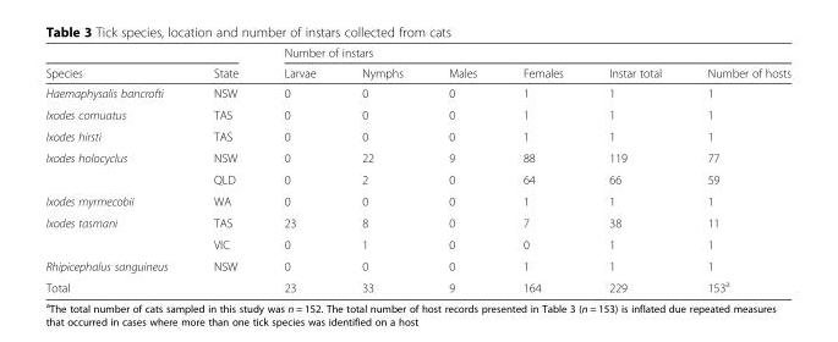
<table><thead><tr><td rowspan="2">Species</td><td rowspan="2">State</td><td colspan="6">Number of instars</td></tr><tr><td>Larvae</td><td>Nymphs</td><td>Males</td><td>Females</td><td>Instar total</td><td>Number of hosts</td></tr></thead><tbody><tr><td>Haemaphysalis bancrofti</td><td>NSW</td><td>0</td><td>0</td><td>0</td><td>1</td><td>1</td><td>1</td></tr><tr><td>Ixodes cornuatus</td><td>TAS</td><td>0</td><td>0</td><td>0</td><td>1</td><td>1</td><td>1</td></tr><tr><td>Ixodes hirsti</td><td>TAS</td><td>0</td><td>0</td><td>0</td><td>1</td><td>1</td><td>1</td></tr><tr><td rowspan="2">Ixodes holocyclus</td><td>NSW</td><td>0</td><td>22</td><td>9</td><td>88</td><td>119</td><td>77</td></tr><tr><td>QLD</td><td>0</td><td>2</td><td>0</td><td>64</td><td>66</td><td>59</td></tr><tr><td>Ixodes myrmecobii</td><td>WA</td><td>0</td><td>0</td><td>0</td><td>1</td><td>1</td><td>1</td></tr><tr><td rowspan="2">Ixodes tasmani</td><td>TAS</td><td>23</td><td>8</td><td>0</td><td>7</td><td>38</td><td>11</td></tr><tr><td>VIC</td><td>0</td><td>1</td><td>0</td><td>0</td><td>1</td><td>1</td></tr><tr><td>Rhipicephalus sanguineus</td><td>NSW</td><td>0</td><td>0</td><td>0</td><td>1</td><td>1</td><td>1</td></tr><tr><td>Total</td><td></td><td>23</td><td>33</td><td>9</td><td>164</td><td>229</td><td>153<sup>a</sup></td></tr></tbody></table>